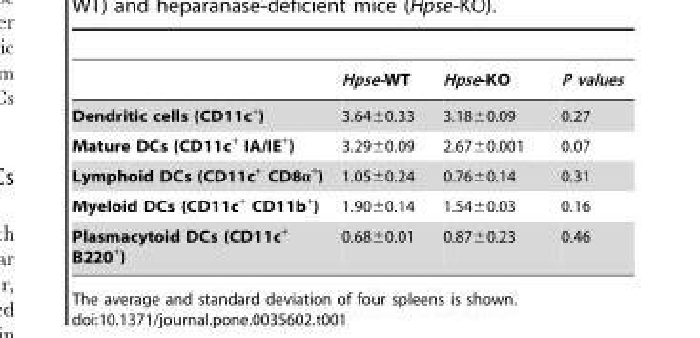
<table><thead><tr><td></td><td>Hpse-WT</td><td>Hpse-KO</td><td>P values</td></tr></thead><tbody><tr><td>Dendritic cells (CD11c<sup>+</sup>)</td><td>3.64±0.33</td><td>3.18±0.09</td><td>0.27</td></tr><tr><td>Mature DCs (CD11c<sup>+</sup> IA/IE<sup>+</sup>)</td><td>3.29±0.09</td><td>2.67±0.001</td><td>0.07</td></tr><tr><td>Lymphoid DCs (CD11c<sup>+</sup> CD8α<sup>+</sup>)</td><td>1.05±0.24</td><td>0.76±0.14</td><td>0.31</td></tr><tr><td>Myeloid DCs (CD11c<sup>+</sup> CD11b<sup>+</sup>)</td><td>1.90±0.14</td><td>1.54±0.03</td><td>0.16</td></tr><tr><td>Plasmacytoid DCs (CD11c<sup>+</sup> B220<sup>+</sup>)</td><td>0.68±0.01</td><td>0.87±0.23</td><td>0.46</td></tr></tbody></table>